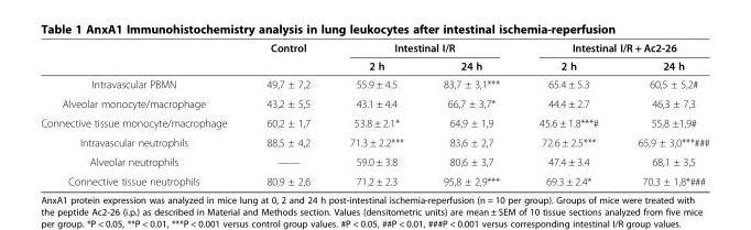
<table><thead><tr><td rowspan="2"></td><td rowspan="2">Control</td><td colspan="2">Intestinal I/R</td><td colspan="2">Intestinal I/R + Ac2-26</td></tr><tr><td>2 h</td><td>24 h</td><td>2 h</td><td>24 h</td></tr></thead><tbody><tr><td>Intravascular PBMN</td><td>49,7 ± 7,2</td><td>55.9 ± 4.5</td><td>83,7 ± 3,1***</td><td>65.4 ± 5.3</td><td>60,5 ± 5,2#</td></tr><tr><td>Alveolar monocyte/macrophage</td><td>43,2 ± 5,5</td><td>43.1 ± 4.4</td><td>66,7 ± 3,7*</td><td>44.4 ± 2.7</td><td>46,3 ± 7,3</td></tr><tr><td>Connective tissue monocyte/macrophage</td><td>60,2 ± 1,7</td><td>53.8 ± 2.1*</td><td>64,9 ± 1,9</td><td>45.6 ± 1.8***#</td><td>55,8 ±1,9#</td></tr><tr><td>Intravascular neutrophils</td><td>88,5 ± 4,2</td><td>71.3 ± 2.2***</td><td>83,6 ± 2,7</td><td>72.6 ± 2.5***</td><td>65,9 ± 3,0***###</td></tr><tr><td>Alveolar neutrophils</td><td>——</td><td>59.0 ± 3.8</td><td>80,6 ± 3,7</td><td>47.4 ± 3.4</td><td>68,1 ± 3,5</td></tr><tr><td>Connective tissue neutrophils</td><td>80,9 ± 2,6</td><td>71.2 ± 2.3</td><td>95,8 ± 2,9***</td><td>69.3 ± 2.4*</td><td>70,3 ± 1,8*###</td></tr></tbody></table>